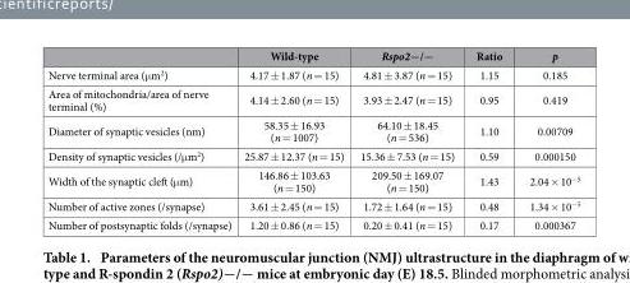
<table><thead><tr><td></td><td>Wild-type</td><td>Rspo2−/−</td><td>Ratio</td><td>p</td></tr></thead><tbody><tr><td>Nerve terminal area (μ m<sup>2</sup>)</td><td>4.17 ± 1.87 (n = 15)</td><td>4.81 ± 3.87 (n = 15)</td><td>1.15</td><td>0.185</td></tr><tr><td>Area of mitochondria/area of nerve terminal (%)</td><td>4.14 ± 2.60 (n = 15)</td><td>3.93 ± 2.47 (n = 15)</td><td>0.95</td><td>0.419</td></tr><tr><td>Diameter of synaptic vesicles (nm)</td><td>58.35 ± 16.93 (n = 1007)</td><td>64.10 ± 18.45 (n = 536)</td><td>1.10</td><td>0.00709</td></tr><tr><td>Density of synaptic vesicles (/μ m<sup>2</sup>)</td><td>25.87 ± 12.37 (n = 15)</td><td>15.36 ± 7.53 (n = 15)</td><td>0.59</td><td>0.000150</td></tr><tr><td>Width of the synaptic cleft (μ m)</td><td>146.86 ± 103.63 (n = 150)</td><td>209.50 ± 169.07 (n = 150)</td><td>1.43</td><td>2.04 × 10<sup>−5</sup></td></tr><tr><td>Number of active zones (/synapse)</td><td>3.61 ± 2.45 (n = 15)</td><td>1.72 ± 1.64 (n = 15)</td><td>0.48</td><td>1.34 × 10<sup>−5</sup></td></tr><tr><td>Number of postsynaptic folds (/synapse)</td><td>1.20 ± 0.86 (n = 15)</td><td>0.20 ± 0.41 (n = 15)</td><td>0.17</td><td>0.000367</td></tr></tbody></table>